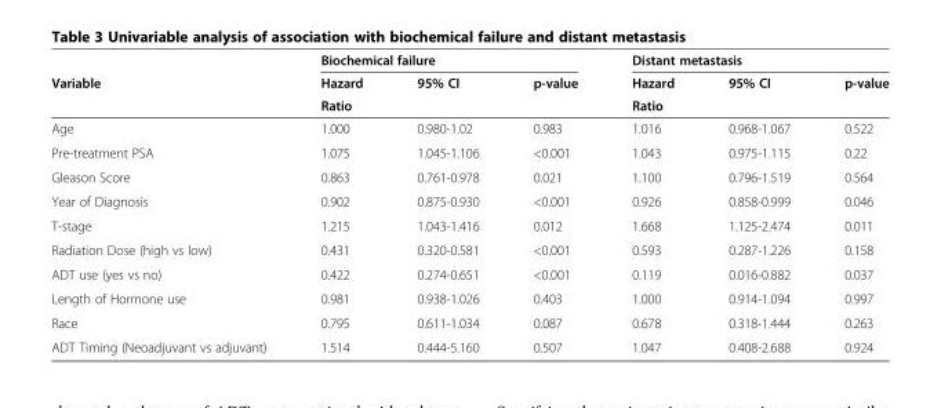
<table><thead><tr><td rowspan="3">Variable</td><td colspan="3">Biochemical failure</td><td colspan="3">Distant metastasis</td></tr><tr><td rowspan="2">Hazard Ratio</td><td rowspan="2">95% CI</td><td rowspan="2">p-value</td><td rowspan="2">Hazard Ratio</td><td rowspan="2">95% CI</td><td rowspan="2">p-value</td></tr><tr></tr></thead><tbody><tr><td>Age</td><td>1.000</td><td>0.980-1.02</td><td>0.983</td><td>1.016</td><td>0.968-1.067</td><td>0.522</td></tr><tr><td>Pre-treatment PSA</td><td>1.075</td><td>1.045-1.106</td><td>&lt;0.001</td><td>1.043</td><td>0.975-1.115</td><td>0.22</td></tr><tr><td>Gleason Score</td><td>0.863</td><td>0.761-0.978</td><td>0.021</td><td>1.100</td><td>0.796-1.519</td><td>0.564</td></tr><tr><td>Year of Diagnosis</td><td>0.902</td><td>0.875-0.930</td><td>&lt;0.001</td><td>0.926</td><td>0.858-0.999</td><td>0.046</td></tr><tr><td>T-stage</td><td>1.215</td><td>1.043-1.416</td><td>0.012</td><td>1.668</td><td>1.125-2.474</td><td>0.011</td></tr><tr><td>Radiation Dose (high vs low)</td><td>0.431</td><td>0.320-0.581</td><td>&lt;0.001</td><td>0.593</td><td>0.287-1.226</td><td>0.158</td></tr><tr><td>ADT use (yes vs no)</td><td>0.422</td><td>0.274-0.651</td><td>&lt;0.001</td><td>0.119</td><td>0.016-0.882</td><td>0.037</td></tr><tr><td>Length of Hormone use</td><td>0.981</td><td>0.938-1.026</td><td>0.403</td><td>1.000</td><td>0.914-1.094</td><td>0.997</td></tr><tr><td>Race</td><td>0.795</td><td>0.611-1.034</td><td>0.087</td><td>0.678</td><td>0.318-1.444</td><td>0.263</td></tr><tr><td>ADT Timing (Neoadjuvant vs adjuvant)</td><td>1.514</td><td>0.444-5.160</td><td>0.507</td><td>1.047</td><td>0.408-2.688</td><td>0.924</td></tr></tbody></table>